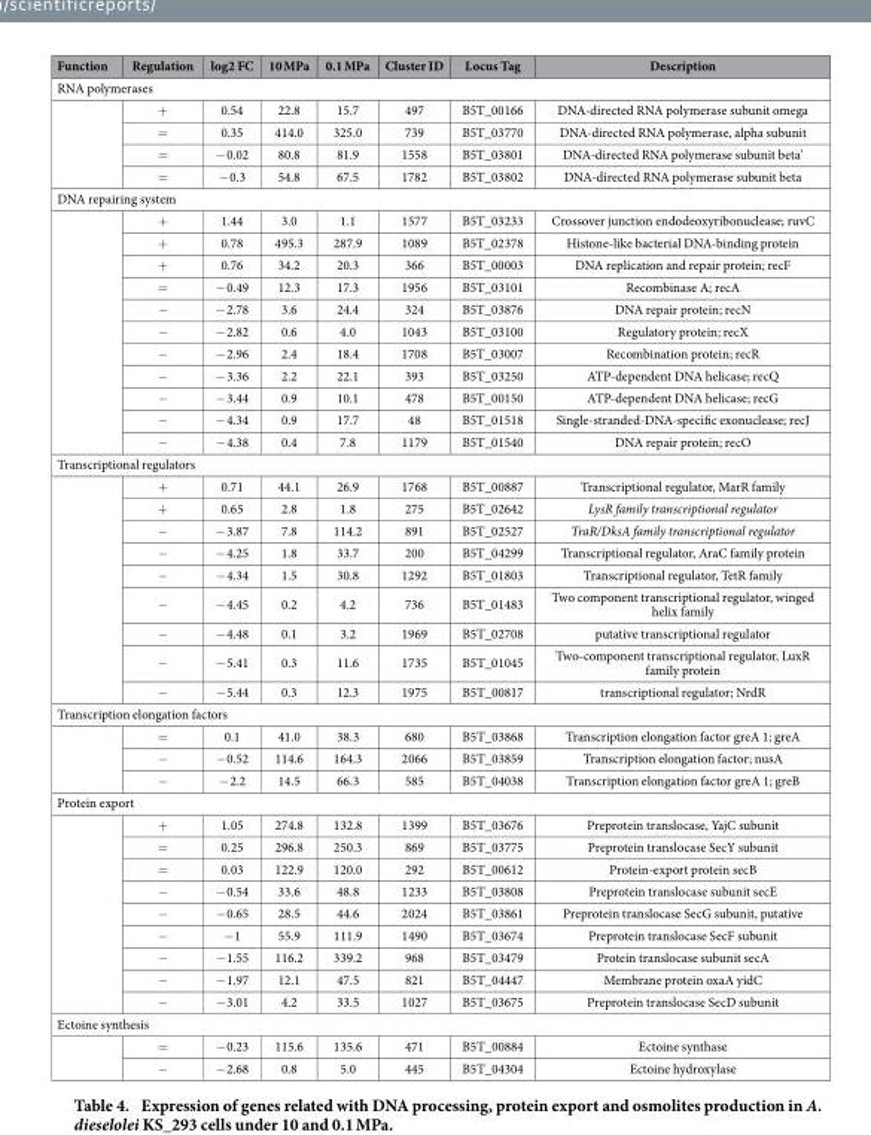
<table><thead><tr><td>Function</td><td>Regulation</td><td>log2 FC</td><td>10 MPa</td><td>0.1 MPa</td><td>Cluster ID</td><td>Locus Tag</td><td>Description</td></tr></thead><tbody><tr><td colspan="8">RNA polymerases</td></tr><tr><td rowspan="4"></td><td>+</td><td>0.54</td><td>22.8</td><td>15.7</td><td>497</td><td>B5T_00166</td><td>DNA-directed RNA polymerase subunit omega</td></tr><tr><td>=</td><td>0.35</td><td>414.0</td><td>325.0</td><td>739</td><td>B5T_03770</td><td>DNA-directed RNA polymerase, alpha subunit</td></tr><tr><td>=</td><td>− 0.02</td><td>80.8</td><td>81.9</td><td>1558</td><td>B5T_03801</td><td>DNA-directed RNA polymerase subunit beta&#x27;</td></tr><tr><td>=</td><td>− 0.3</td><td>54.8</td><td>67.5</td><td>1782</td><td>B5T_03802</td><td>DNA-directed RNA polymerase subunit beta</td></tr><tr><td colspan="8">DNA repairing system</td></tr><tr><td rowspan="11"></td><td>+</td><td>1.44</td><td>3.0</td><td>1.1</td><td>1577</td><td>B5T_03233</td><td>Crossover junction endodeoxyribonuclease; ruvC</td></tr><tr><td>+</td><td>0.78</td><td>495.3</td><td>287.9</td><td>1089</td><td>B5T_02378</td><td>Histone-like bacterial DNA-binding protein</td></tr><tr><td>+</td><td>0.76</td><td>34.2</td><td>20.3</td><td>366</td><td>B5T_00003</td><td>DNA replication and repair protein; recF</td></tr><tr><td>=</td><td>− 0.49</td><td>12.3</td><td>17.3</td><td>1956</td><td>B5T_03101</td><td>Recombinase A; recA</td></tr><tr><td>−</td><td>− 2.78</td><td>3.6</td><td>24.4</td><td>324</td><td>B5T_03876</td><td>DNA repair protein; recN</td></tr><tr><td>−</td><td>− 2.82</td><td>0.6</td><td>4.0</td><td>1043</td><td>B5T_03100</td><td>Regulatory protein; recX</td></tr><tr><td>−</td><td>− 2.96</td><td>2.4</td><td>18.4</td><td>1708</td><td>B5T_03007</td><td>Recombination protein; recR</td></tr><tr><td>−</td><td>− 3.36</td><td>2.2</td><td>22.1</td><td>393</td><td>B5T_03250</td><td>ATP-dependent DNA helicase; recQ</td></tr><tr><td>−</td><td>− 3.44</td><td>0.9</td><td>10.1</td><td>478</td><td>B5T_00150</td><td>ATP-dependent DNA helicase; recG</td></tr><tr><td>−</td><td>− 4.34</td><td>0.9</td><td>17.7</td><td>48</td><td>B5T_01518</td><td>Single-stranded-DNA-specific exonuclease; recJ</td></tr><tr><td>−</td><td>− 4.38</td><td>0.4</td><td>7.8</td><td>1179</td><td>B5T_01540</td><td>DNA repair protein; recO</td></tr><tr><td colspan="8">Transcriptional regulators</td></tr><tr><td rowspan="9"></td><td>+</td><td>0.71</td><td>44.1</td><td>26.9</td><td>1768</td><td>B5T_00887</td><td>Transcriptional regulator, MarR family</td></tr><tr><td>+</td><td>0.65</td><td>2.8</td><td>1.8</td><td>275</td><td>B5T_02642</td><td>LysR family transcriptional regulator</td></tr><tr><td>−</td><td>− 3.87</td><td>7.8</td><td>114.2</td><td>891</td><td>B5T_02527</td><td>TraR/DksA family transcriptional regulator</td></tr><tr><td>−</td><td>− 4.25</td><td>1.8</td><td>33.7</td><td>200</td><td>B5T_04299</td><td>Transcriptional regulator, AraC family protein</td></tr><tr><td>−</td><td>− 4.34</td><td>1.5</td><td>30.8</td><td>1292</td><td>B5T_01803</td><td>Transcriptional regulator, TetR family</td></tr><tr><td>−</td><td>− 4.45</td><td>0.2</td><td>4.2</td><td>736</td><td>B5T_01483</td><td>Two component transcriptional regulator, winged helix family</td></tr><tr><td>−</td><td>− 4.48</td><td>0.1</td><td>3.2</td><td>1969</td><td>B5T_02708</td><td>putative transcriptional regulator</td></tr><tr><td>−</td><td>− 5.41</td><td>0.3</td><td>11.6</td><td>1735</td><td>B5T_01045</td><td>Two-component transcriptional regulator, LuxR family protein</td></tr><tr><td>−</td><td>− 5.44</td><td>0.3</td><td>12.3</td><td>1975</td><td>B5T_00817</td><td>transcriptional regulator; NrdR</td></tr><tr><td colspan="8">Transcription elongation factors</td></tr><tr><td rowspan="3"></td><td>=</td><td>0.1</td><td>41.0</td><td>38.3</td><td>680</td><td>B5T_03868</td><td>Transcription elongation factor greA 1; greA</td></tr><tr><td>−</td><td>− 0.52</td><td>114.6</td><td>164.3</td><td>2066</td><td>B5T_03859</td><td>Transcription elongation factor; nusA</td></tr><tr><td>−</td><td>− 2.2</td><td>14.5</td><td>66.3</td><td>585</td><td>B5T_04038</td><td>Transcription elongation factor greA 1; greB</td></tr><tr><td colspan="8">Protein export</td></tr><tr><td rowspan="9"></td><td>+</td><td>1.05</td><td>274.8</td><td>132.8</td><td>1399</td><td>B5T_03676</td><td>Preprotein translocase, YajC subunit</td></tr><tr><td>=</td><td>0.25</td><td>296.8</td><td>250.3</td><td>869</td><td>B5T_03775</td><td>Preprotein translocase SecY subunit</td></tr><tr><td>=</td><td>0.03</td><td>122.9</td><td>120.0</td><td>292</td><td>B5T_00612</td><td>Protein-export protein secB</td></tr><tr><td>−</td><td>− 0.54</td><td>33.6</td><td>48.8</td><td>1233</td><td>B5T_03808</td><td>Preprotein translocase subunit secE</td></tr><tr><td>−</td><td>− 0.65</td><td>28.5</td><td>44.6</td><td>2024</td><td>B5T_03861</td><td>Preprotein translocase SecG subunit, putative</td></tr><tr><td>−</td><td>− 1</td><td>55.9</td><td>111.9</td><td>1490</td><td>B5T_03674</td><td>Preprotein translocase SecF subunit</td></tr><tr><td>−</td><td>− 1.55</td><td>116.2</td><td>339.2</td><td>968</td><td>B5T_03479</td><td>Protein translocase subunit secA</td></tr><tr><td>−</td><td>− 1.97</td><td>12.1</td><td>47.5</td><td>821</td><td>B5T_04447</td><td>Membrane protein oxaA yidC</td></tr><tr><td>−</td><td>− 3.01</td><td>4.2</td><td>33.5</td><td>1027</td><td>B5T_03675</td><td>Preprotein translocase SecD subunit</td></tr><tr><td colspan="8">Ectoine synthesis</td></tr><tr><td rowspan="2"></td><td>=</td><td>− 0.23</td><td>115.6</td><td>135.6</td><td>471</td><td>B5T_00884</td><td>Ectoine synthase</td></tr><tr><td>−</td><td>− 2.68</td><td>0.8</td><td>5.0</td><td>445</td><td>B5T_04304</td><td>Ectoine hydroxylase</td></tr></tbody></table>